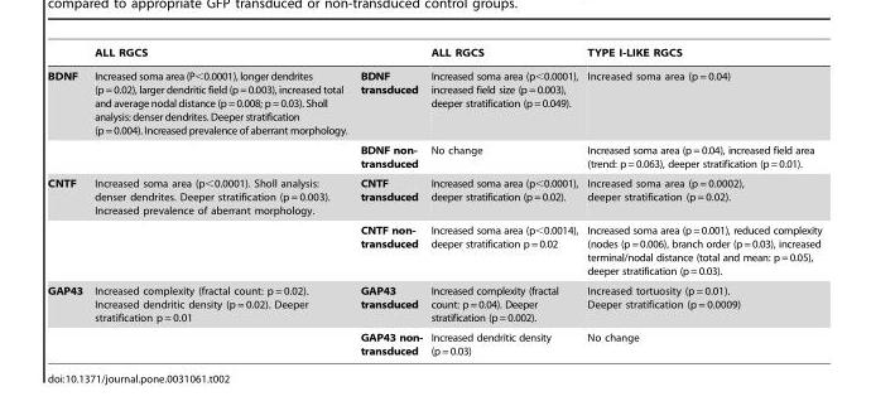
<table><thead><tr><td></td><td>ALL RGCS</td><td></td><td>ALL RGCS</td><td>TYPE I-LIKE RGCS</td></tr></thead><tbody><tr><td rowspan="2">BDNF</td><td>Increased soma area (P&lt;0.0001), longer dendrites (p=0.02), larger dendritic field (p=0.003), increased total and average nodal distance (p=0.008; p=0.03). Sholl analysis: denser dendrites. Deeper stratification (p=0.004). Increased prevalence of aberrant morphology.</td><td>BDNF transduced</td><td>Increased soma area (p&lt;0.0001), increased field size (p=0.003), deeper stratification (p=0.049).</td><td>Increased soma area (p = 0.04)</td></tr><tr><td></td><td>BDNF non- transduced</td><td>No change</td><td>Increased soma area (p=0.04), increased field area (trend: p=0.063), deeper stratification (p=0.01).</td></tr><tr><td rowspan="2">CNTF</td><td>Increased soma area (p&lt;0.0001). Sholl analysis: denser dendrites. Deeper stratification (p = 0.003). Increased prevalence of aberrant morphology.</td><td>CNTF transduced</td><td>Increased soma area (p&lt;0.0001), deeper stratification (p=0.02).</td><td>Increased soma area (p = 0.0002), deeper stratification (p = 0.02).</td></tr><tr><td></td><td>CNTF non- transduced</td><td>Increased soma area (p&lt;0.0014), deeper stratification p=0.02</td><td>Increased soma area (p=0.001), reduced complexity (nodes (p=0.006), branch order (p=0.03), increased terminal/nodal distance (total and mean: p=0.05), deeper stratification (p=0.03).</td></tr><tr><td rowspan="2">GAP43</td><td>Increased complexity (fractal count: p = 0.02). Increased dendritic density (p = 0.02). Deeper stratification p = 0.01</td><td>GAP43 transduced</td><td>Increased complexity (fractal count: p=0.04). Deeper stratification (p=0.002).</td><td>Increased tortuosity (p = 0.01). Deeper stratification (p = 0.0009)</td></tr><tr><td></td><td>GAP43 non- transduced</td><td>Increased dendritic density (p=0.03)</td><td>No change</td></tr></tbody></table>